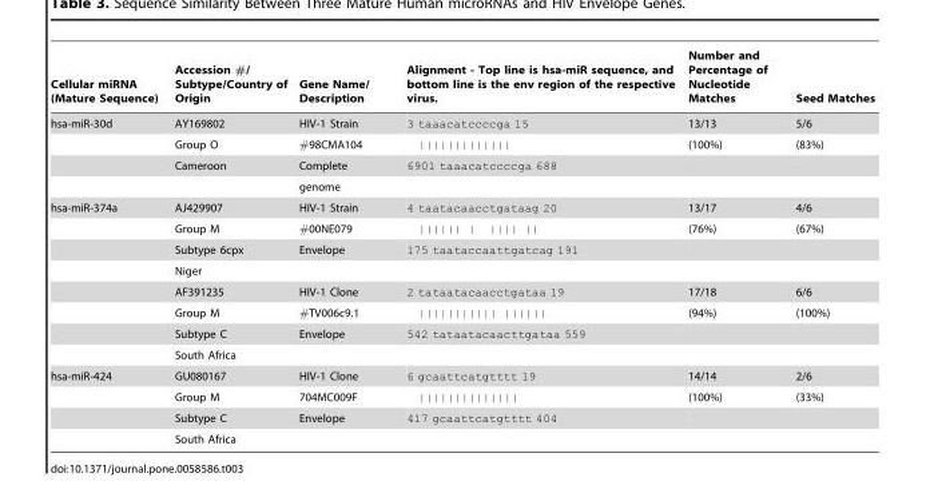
<table><thead><tr><td>Cellular miRNA (Mature Sequence)</td><td>Accession #/ Subtype/Country of Origin</td><td>Gene Name/ Description</td><td>Alignment - Top line is hsa-miR sequence, and bottom line is the env region of the respective virus.</td><td>Number and Percentage of Nucleotide Matches</td><td>Seed Matches</td></tr></thead><tbody><tr><td rowspan="4">hsa-miR-30d</td><td>AY169802</td><td>HIV-1 Strain</td><td>3 taaacatccccga 15</td><td>13/13</td><td>5/6</td></tr><tr><td>Group O</td><td>#98CMA104</td><td>|||||||||||||</td><td>(100%)</td><td>(83%)</td></tr><tr><td>Cameroon</td><td>Complete</td><td>6901 taaacatccccga 688</td><td></td><td></td></tr><tr><td></td><td>genome</td><td></td><td></td><td></td></tr><tr><td rowspan="8">hsa-miR-374a</td><td>AJ429907</td><td>HIV-1 Strain</td><td>4 taatacaacctgataag 20</td><td>13/17</td><td>4/6</td></tr><tr><td>Group M</td><td>#00NE079</td><td>|||||| | |||| ||</td><td>(76%)</td><td>(67%)</td></tr><tr><td>Subtype 6cpx</td><td>Envelope</td><td>175 taataccaattgatcag 191</td><td></td><td></td></tr><tr><td>Niger</td><td></td><td></td><td></td><td></td></tr><tr><td>AF391235</td><td>HIV-1 Clone</td><td>2 tataatacaacctgataa 19</td><td>17/18</td><td>6/6</td></tr><tr><td>Group M</td><td>#TV006c9.1</td><td>||||||||||| ||||||</td><td>(94%)</td><td>(100%)</td></tr><tr><td>Subtype C</td><td>Envelope</td><td>542 tataatacaacttgataa 559</td><td></td><td></td></tr><tr><td>South Africa</td><td></td><td></td><td></td><td></td></tr><tr><td rowspan="4">hsa-miR-424</td><td>GU080167</td><td>HIV-1 Clone</td><td>6 gcaattcatgtttt 19</td><td>14/14</td><td>2/6</td></tr><tr><td>Group M</td><td>704MC009F</td><td>||||||||||||||</td><td>(100%)</td><td>(33%)</td></tr><tr><td>Subtype C</td><td>Envelope</td><td>417 gcaattcatgtttt 404</td><td></td><td></td></tr><tr><td>South Africa</td><td></td><td></td><td></td><td></td></tr></tbody></table>